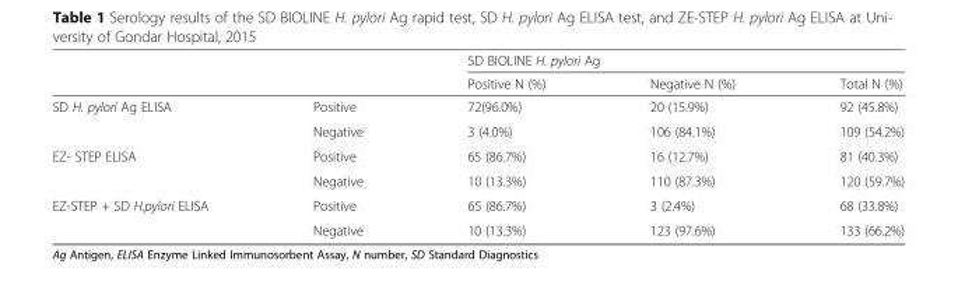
<table><thead><tr><td rowspan="2"></td><td rowspan="2"></td><td colspan="3">SD BIOLINE H. pylori Ag</td></tr><tr><td>Positive N (%)</td><td>Negative N (%)</td><td>Total N (%)</td></tr></thead><tbody><tr><td rowspan="2">SD H. pylori Ag ELISA</td><td>Positive</td><td>72(96.0%)</td><td>20 (15.9%)</td><td>92 (45.8%)</td></tr><tr><td>Negative</td><td>3 (4.0%)</td><td>106 (84.1%)</td><td>109 (54.2%)</td></tr><tr><td rowspan="2">EZ- STEP ELISA</td><td>Positive</td><td>65 (86.7%)</td><td>16 (12.7%)</td><td>81 (40.3%)</td></tr><tr><td>Negative</td><td>10 (13.3%)</td><td>110 (87.3%)</td><td>120 (59.7%)</td></tr><tr><td rowspan="2">EZ-STEP + SD H.pylori ELISA</td><td>Positive</td><td>65 (86.7%)</td><td>3 (2.4%)</td><td>68 (33.8%)</td></tr><tr><td>Negative</td><td>10 (13.3%)</td><td>123 (97.6%)</td><td>133 (66.2%)</td></tr></tbody></table>